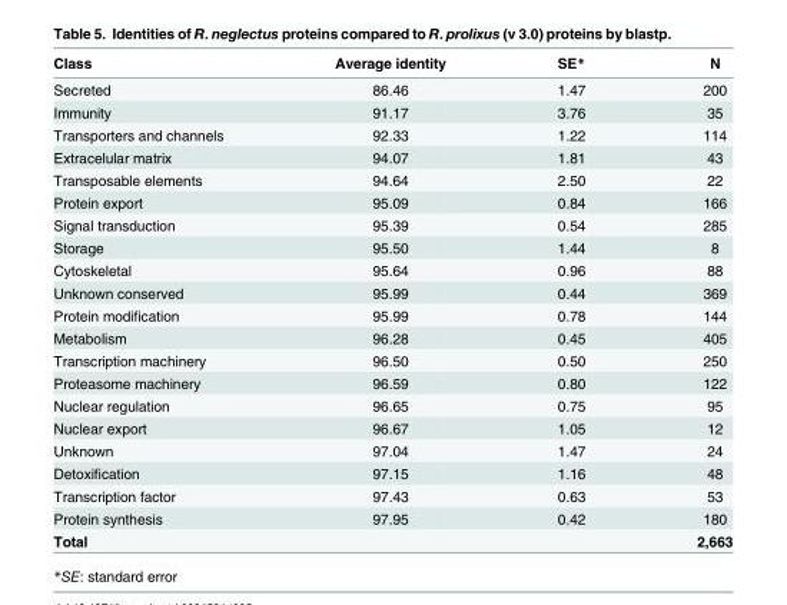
<table><thead><tr><td>Class</td><td>Average identity</td><td>SE*</td><td>N</td></tr></thead><tbody><tr><td>Secreted</td><td>86.46</td><td>1.47</td><td>200</td></tr><tr><td>Immunity</td><td>91.17</td><td>3.76</td><td>35</td></tr><tr><td>Transporters and channels</td><td>92.33</td><td>1.22</td><td>114</td></tr><tr><td>Extracelular matrix</td><td>94.07</td><td>1.81</td><td>43</td></tr><tr><td>Transposable elements</td><td>94.64</td><td>2.50</td><td>22</td></tr><tr><td>Protein export</td><td>95.09</td><td>0.84</td><td>166</td></tr><tr><td>Signal transduction</td><td>95.39</td><td>0.54</td><td>285</td></tr><tr><td>Storage</td><td>95.50</td><td>1.44</td><td>8</td></tr><tr><td>Cytoskeletal</td><td>95.64</td><td>0.96</td><td>88</td></tr><tr><td>Unknown conserved</td><td>95.99</td><td>0.44</td><td>369</td></tr><tr><td>Protein modification</td><td>95.99</td><td>0.78</td><td>144</td></tr><tr><td>Metabolism</td><td>96.28</td><td>0.45</td><td>405</td></tr><tr><td>Transcription machinery</td><td>96.50</td><td>0.50</td><td>250</td></tr><tr><td>Proteasome machinery</td><td>96.59</td><td>0.80</td><td>122</td></tr><tr><td>Nuclear regulation</td><td>96.65</td><td>0.75</td><td>95</td></tr><tr><td>Nuclear export</td><td>96.67</td><td>1.05</td><td>12</td></tr><tr><td>Unknown</td><td>97.04</td><td>1.47</td><td>24</td></tr><tr><td>Detoxification</td><td>97.15</td><td>1.16</td><td>48</td></tr><tr><td>Transcription factor</td><td>97.43</td><td>0.63</td><td>53</td></tr><tr><td>Protein synthesis</td><td>97.95</td><td>0.42</td><td>180</td></tr><tr><td>Total</td><td></td><td></td><td>2,663</td></tr></tbody></table>